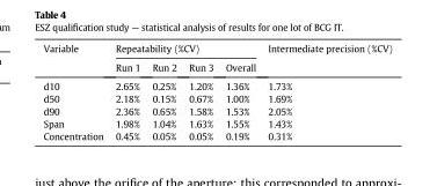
<table><thead><tr><td rowspan="2">Variable</td><td colspan="4">Repeatability (%CV)</td><td rowspan="2">Intermediate precision (%CV)</td></tr><tr><td>Run 1</td><td>Run 2</td><td>Run 3</td><td>Overall</td></tr></thead><tbody><tr><td>d10</td><td>2.65%</td><td>0.25%</td><td>1.20%</td><td>1.36%</td><td>1.73%</td></tr><tr><td>d50</td><td>2.18%</td><td>0.15%</td><td>0.67%</td><td>1.00%</td><td>1.69%</td></tr><tr><td>d90</td><td>2.36%</td><td>0.65%</td><td>1.58%</td><td>1.53%</td><td>2.05%</td></tr><tr><td>Span</td><td>1.98%</td><td>1.04%</td><td>1.63%</td><td>1.55%</td><td>1.43%</td></tr><tr><td>Concentration</td><td>0.45%</td><td>0.05%</td><td>0.05%</td><td>0.19%</td><td>0.31%</td></tr></tbody></table>